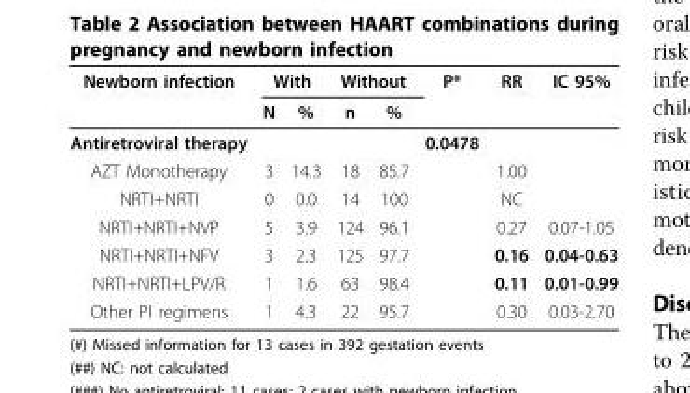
<table><thead><tr><td rowspan="2">Newborn infection</td><td colspan="2">With</td><td colspan="2">Without</td><td rowspan="2">P*</td><td rowspan="2">RR</td><td rowspan="2">IC 95%</td></tr><tr><td>N</td><td>%</td><td>n</td><td>%</td></tr></thead><tbody><tr><td>Antiretroviral therapy</td><td></td><td></td><td></td><td></td><td>0.0478</td><td></td><td></td></tr><tr><td>AZT Monotherapy</td><td>3</td><td>14.3</td><td>18</td><td>85.7</td><td></td><td>1.00</td><td></td></tr><tr><td>NRTI+NRTI</td><td>0</td><td>0.0</td><td>14</td><td>100</td><td></td><td>NC</td><td></td></tr><tr><td>NRTI+NRTI+NVP</td><td>5</td><td>3.9</td><td>124</td><td>96.1</td><td></td><td>0.27</td><td>0.07-1.05</td></tr><tr><td>NRTI+NRTI+NFV</td><td>3</td><td>2.3</td><td>125</td><td>97.7</td><td></td><td>0.16</td><td>0.04-0.63</td></tr><tr><td>NRTI+NRTI+LPV/R</td><td>1</td><td>1.6</td><td>63</td><td>98.4</td><td></td><td>0.11</td><td>0.01-0.99</td></tr><tr><td>Other PI regimens</td><td>1</td><td>4.3</td><td>22</td><td>95.7</td><td></td><td>0.30</td><td>0.03-2.70</td></tr></tbody></table>